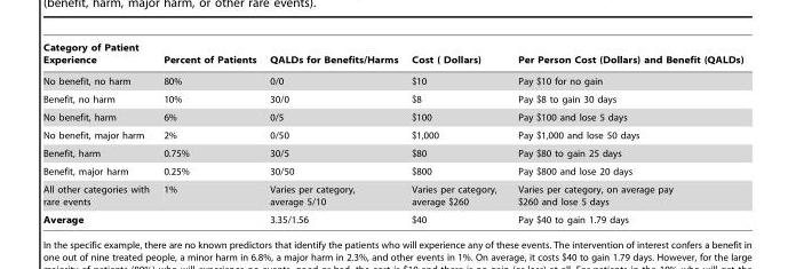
<table><thead><tr><td>Category of Patient Experience</td><td>Percent of Patients</td><td>QALDs for Benefits/Harms</td><td>Cost ( Dollars)</td><td>Per Person Cost (Dollars) and Benefit (QALDs)</td></tr></thead><tbody><tr><td>No benefit, no harm</td><td>80%</td><td>0/0</td><td>$10</td><td>Pay $10 for no gain</td></tr><tr><td>Benefit, no harm</td><td>10%</td><td>30/0</td><td>$8</td><td>Pay $8 to gain 30 days</td></tr><tr><td>No benefit, harm</td><td>6%</td><td>0/5</td><td>$100</td><td>Pay $100 and lose 5 days</td></tr><tr><td>No benefit, major harm</td><td>2%</td><td>0/50</td><td>$1,000</td><td>Pay $1,000 and lose 50 days</td></tr><tr><td>Benefit, harm</td><td>0.75%</td><td>30/5</td><td>$80</td><td>Pay $80 to gain 25 days</td></tr><tr><td>Benefit, major harm</td><td>0.25%</td><td>30/50</td><td>$800</td><td>Pay $800 and lose 20 days</td></tr><tr><td>All other categories with rare events</td><td>1%</td><td>Varies per category, average 5/10</td><td>Varies per category, average $260</td><td>Varies per category, on average pay $260 and lose 5 days</td></tr><tr><td>Average</td><td></td><td>3.35/1.56</td><td>$40</td><td>Pay $40 to gain 1.79 days</td></tr></tbody></table>